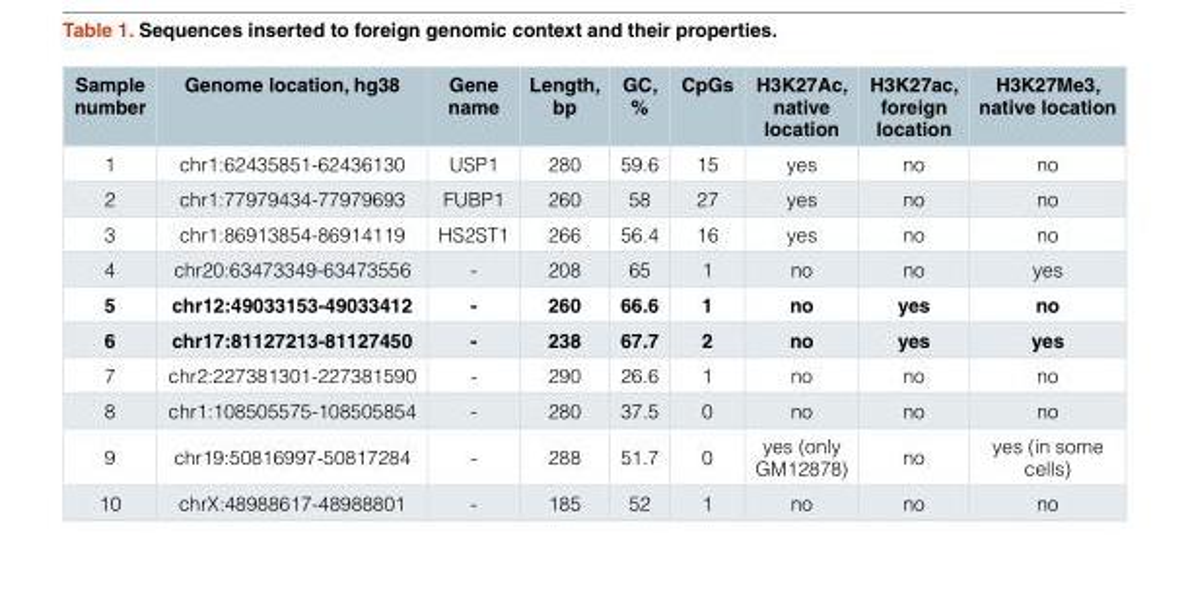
<table><thead><tr><td>Sample number</td><td>Genome location, hg38</td><td>Gene name</td><td>Length, bp</td><td>GC, %</td><td>CpGs</td><td>H3K27Ac, native location</td><td>H3K27ac, foreign location</td><td>H3K27Me3, native location</td></tr></thead><tbody><tr><td>1</td><td>chr1:62435851-62436130</td><td>USP1</td><td>280</td><td>59.6</td><td>15</td><td>yes</td><td>no</td><td>no</td></tr><tr><td>2</td><td>chr1:77979434-77979693</td><td>FUBP1</td><td>260</td><td>58</td><td>27</td><td>yes</td><td>no</td><td>no</td></tr><tr><td>3</td><td>chr1:86913854-86914119</td><td>HS2ST1</td><td>266</td><td>56.4</td><td>16</td><td>yes</td><td>no</td><td>no</td></tr><tr><td>4</td><td>chr20:63473349-63473556</td><td>-</td><td>208</td><td>65</td><td>1</td><td>no</td><td>no</td><td>yes</td></tr><tr><td>5</td><td>chr12:49033153-49033412</td><td>-</td><td>260</td><td>66.6</td><td>1</td><td>no</td><td>yes</td><td>no</td></tr><tr><td>6</td><td>chr17:81127213-81127450</td><td>-</td><td>238</td><td>67.7</td><td>2</td><td>no</td><td>yes</td><td>yes</td></tr><tr><td>7</td><td>chr2:227381301-227381590</td><td>-</td><td>290</td><td>26.6</td><td>1</td><td>no</td><td>no</td><td>no</td></tr><tr><td>8</td><td>chr1:108505575-108505854</td><td>-</td><td>280</td><td>37.5</td><td>0</td><td>no</td><td>no</td><td>no</td></tr><tr><td>9</td><td>chr19:50816997-50817284</td><td>-</td><td>288</td><td>51.7</td><td>0</td><td>yes (only GM12878)</td><td>no</td><td>yes (in some cells)</td></tr><tr><td>10</td><td>chrX:48988617-48988801</td><td>-</td><td>185</td><td>52</td><td>1</td><td>no</td><td>no</td><td>no</td></tr></tbody></table>